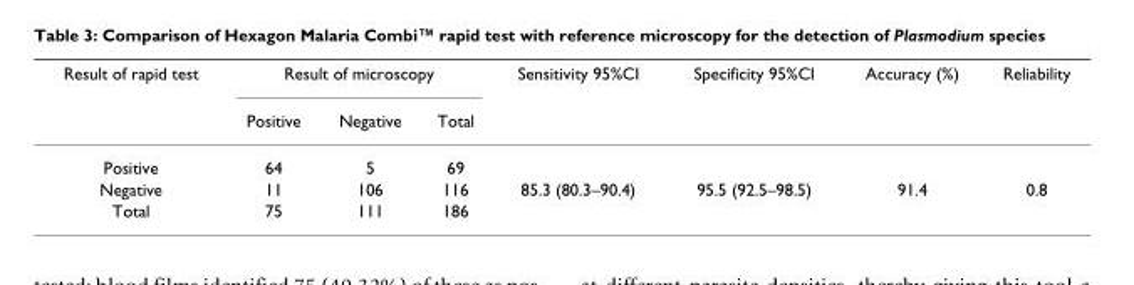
<table><thead><tr><td rowspan="2">Result of rapid test</td><td colspan="3">Result of microscopy</td><td rowspan="2">Sensitivity 95%CI</td><td rowspan="2">Specificity 95%CI</td><td rowspan="2">Accuracy (%)</td><td rowspan="2">Reliability</td></tr><tr><td>Positive</td><td>Negative</td><td>Total</td></tr></thead><tbody><tr><td>Positive</td><td>64</td><td>5</td><td>69</td><td></td><td></td><td></td><td></td></tr><tr><td>Negative</td><td>11</td><td>106</td><td>116</td><td>85.3 (80.3–90.4)</td><td>95.5 (92.5–98.5)</td><td>91.4</td><td>0.8</td></tr><tr><td>Total</td><td>75</td><td>111</td><td>186</td><td></td><td></td><td></td><td></td></tr></tbody></table>